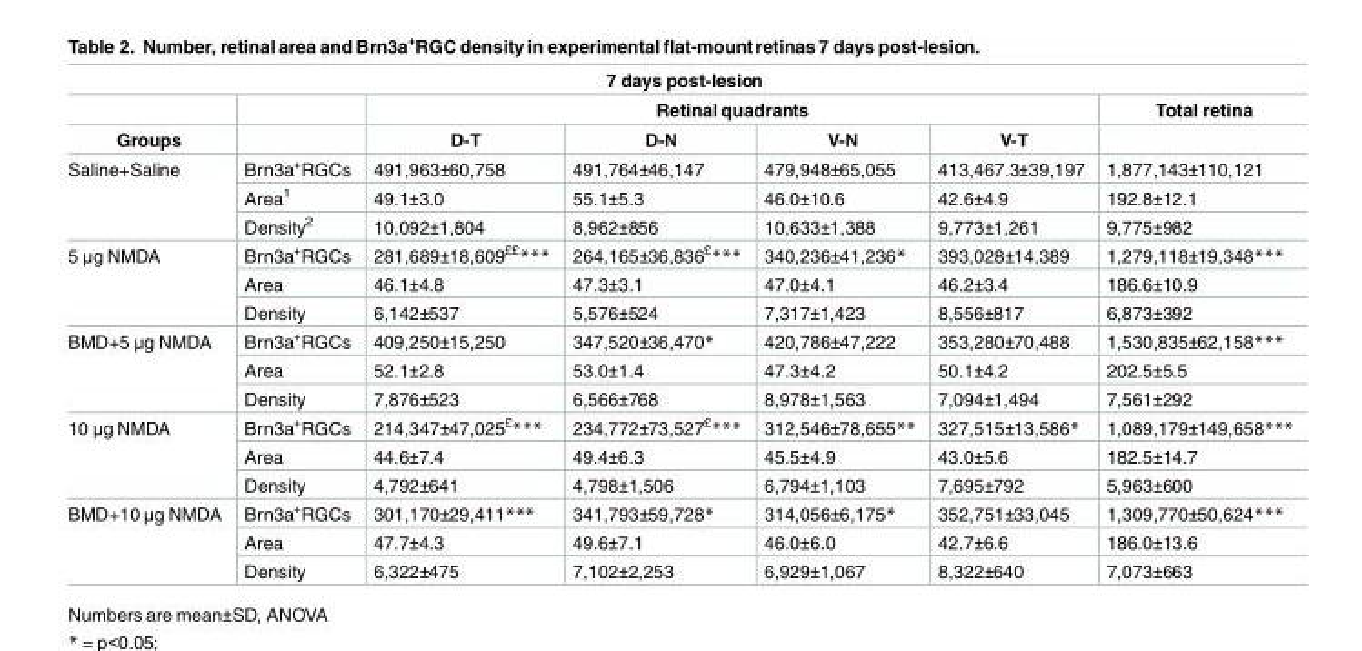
<table><thead><tr><td colspan="7">7 days post-lesion</td></tr><tr><td rowspan="2">Groups</td><td rowspan="2"></td><td colspan="4">Retinal quadrants</td><td rowspan="2">Total retina</td></tr><tr><td>D-T</td><td>D-N</td><td>V-N</td><td>V-T</td></tr></thead><tbody><tr><td rowspan="3">Saline+Saline</td><td>Brn3a<sup>+</sup>RGCs</td><td>491,963±60,758</td><td>491,764±46,147</td><td>479,948±65,055</td><td>413,467.3±39,197</td><td>1,877,143±110,121</td></tr><tr><td>Area<sup>1</sup></td><td>49.1±3.0</td><td>55.1±5.3</td><td>46.0±10.6</td><td>42.6±4.9</td><td>192.8±12.1</td></tr><tr><td>Density<sup>2</sup></td><td>10,092±1,804</td><td>8,962±856</td><td>10,633±1,388</td><td>9,773±1,261</td><td>9,775±982</td></tr><tr><td rowspan="3">5 μg NMDA</td><td>Brn3a<sup>+</sup>RGCs</td><td>281,689±18,609<sup>££</sup>***</td><td>264,165±36,836<sup>£</sup>***</td><td>340,236±41,236*</td><td>393,028±14,389</td><td>1,279,118±19,348***</td></tr><tr><td>Area</td><td>46.1±4.8</td><td>47.3±3.1</td><td>47.0±4.1</td><td>46.2±3.4</td><td>186.6±10.9</td></tr><tr><td>Density</td><td>6,142±537</td><td>5,576±524</td><td>7,317±1,423</td><td>8,556±817</td><td>6,873±392</td></tr><tr><td rowspan="3">BMD+5 μg NMDA</td><td>Brn3a<sup>+</sup>RGCs</td><td>409,250±15,250</td><td>347,520±36,470*</td><td>420,786±47,222</td><td>353,280±70,488</td><td>1,530,835±62,158***</td></tr><tr><td>Area</td><td>52.1±2.8</td><td>53.0±1.4</td><td>47.3±4.2</td><td>50.1±4.2</td><td>202.5±5.5</td></tr><tr><td>Density</td><td>7,876±523</td><td>6,566±768</td><td>8,978±1,563</td><td>7,094±1,494</td><td>7,561±292</td></tr><tr><td rowspan="3">10 μg NMDA</td><td>Brn3a<sup>+</sup>RGCs</td><td>214,347±47,025<sup>£</sup>***</td><td>234,772±73,527<sup>£</sup>***</td><td>312,546±78,655**</td><td>327,515±13,586*</td><td>1,089,179±149,658***</td></tr><tr><td>Area</td><td>44.6±7.4</td><td>49.4±6.3</td><td>45.5±4.9</td><td>43.0±5.6</td><td>182.5±14.7</td></tr><tr><td>Density</td><td>4,792±641</td><td>4,798±1,506</td><td>6,794±1,103</td><td>7,695±792</td><td>5,963±600</td></tr><tr><td rowspan="3">BMD+10 μg NMDA</td><td>Brn3a<sup>+</sup>RGCs</td><td>301,170±29,411***</td><td>341,793±59,728*</td><td>314,056±6,175*</td><td>352,751±33,045</td><td>1,309,770±50,624***</td></tr><tr><td>Area</td><td>47.7±4.3</td><td>49.6±7.1</td><td>46.0±6.0</td><td>42.7±6.6</td><td>186.0±13.6</td></tr><tr><td>Density</td><td>6,322±475</td><td>7,102±2,253</td><td>6,929±1,067</td><td>8,322±640</td><td>7,073±663</td></tr></tbody></table>